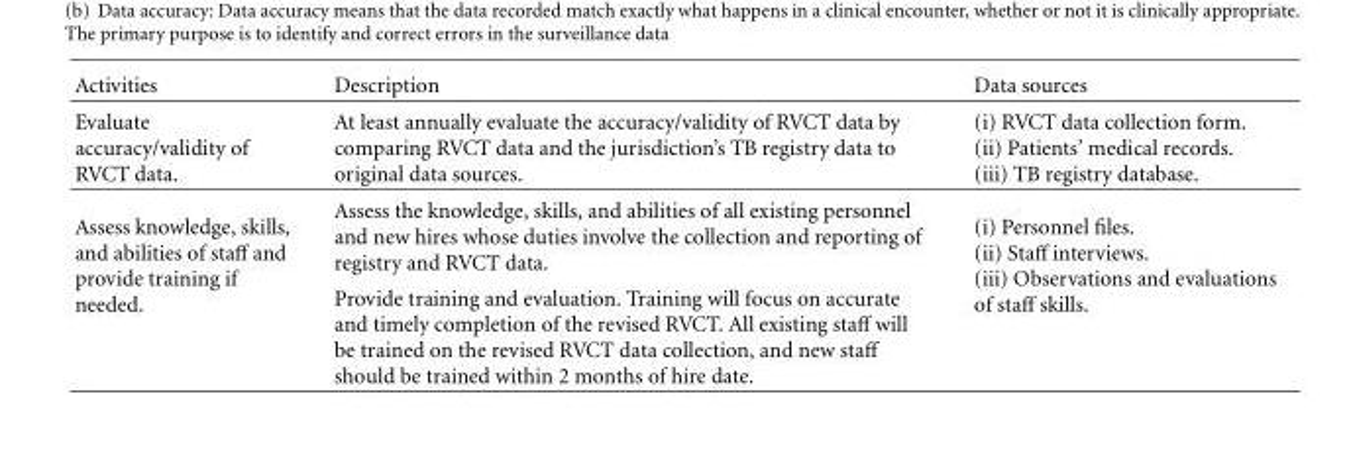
<table><thead><tr><td>Activities</td><td>Description</td><td>Data sources</td></tr></thead><tbody><tr><td>Evaluate accuracy/validity of RVCT data.</td><td>At least annually evaluate the accuracy/validity of RVCT data by comparing RVCT data and the jurisdiction’s TB registry data to original data sources.</td><td>(i) RVCT data collection form. (ii) Patients’ medical records. (iii) TB registry database.</td></tr><tr><td rowspan="2">Assess knowledge, skills, and abilities of staff and provide training if needed.</td><td>Assess the knowledge, skills, and abilities of all existing personnel and new hires whose duties involve the collection and reporting of registry and RVCT data.</td><td rowspan="2">(i) Personnel files. (ii) Staff interviews. (iii) Observations and evaluations of staff skills.</td></tr><tr><td>Provide training and evaluation. Training will focus on accurate and timely completion of the revised RVCT. All existing staff will be trained on the revised RVCT data collection, and new staff should be trained within 2 months of hire date.</td></tr></tbody></table>